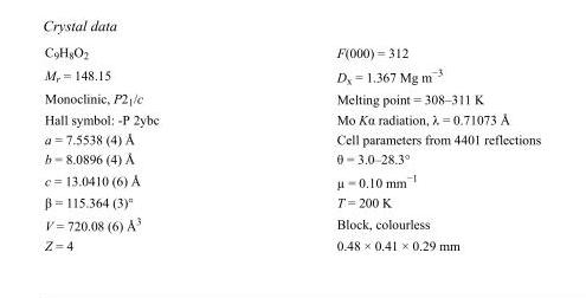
<table><tbody><tr><td>C<sub>9</sub>H<sub>8</sub>O<sub>2</sub></td><td>F(000) = 312</td></tr><tr><td>M<sub>r</sub> = 148.15</td><td>D<sub>x</sub> = 1.367 Mg m<sup>−3</sup></td></tr><tr><td>Monoclinic, P2<sub>1</sub>/c</td><td>Melting point = 308–311 K</td></tr><tr><td>Hall symbol: -P 2ybc</td><td>Mo Kα radiation, λ = 0.71073 Å</td></tr><tr><td>a = 7.5538 (4) Å</td><td>Cell parameters from 4401 reflections</td></tr><tr><td>b = 8.0896 (4) Å</td><td>θ = 3.0–28.3°</td></tr><tr><td>c = 13.0410 (6) Å</td><td>µ = 0.10 mm<sup>−1</sup></td></tr><tr><td>β = 115.364 (3)°</td><td>T = 200 K</td></tr><tr><td>V = 720.08 (6) Å<sup>3</sup></td><td>Block, colourless</td></tr><tr><td>Z = 4</td><td>0.48 × 0.41 × 0.29 mm</td></tr></tbody></table>